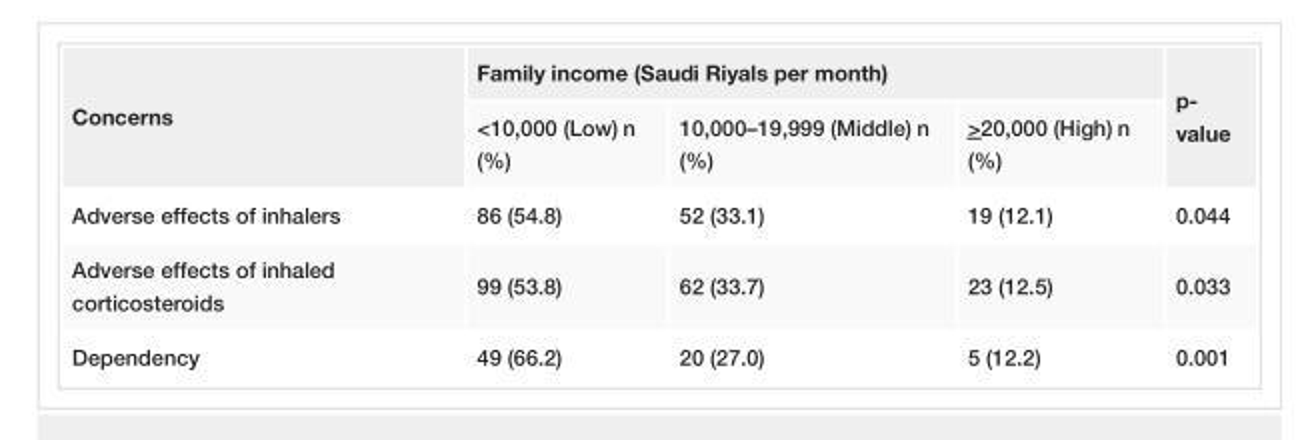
<table><tbody><tr><td rowspan="2">Concerns</td><td colspan="3">Family income (Saudi Riyals per month)</td><td rowspan="2">p- value</td></tr><tr><td>&lt;10,000 (Low) n (%)</td><td>10,000–19,999 (Middle) n (%)</td><td>&gt;20,000 (High) n (%)</td></tr><tr><td>Adverse effects of inhalers</td><td>86 (54.8)</td><td>52 (33.1)</td><td>19 (12.1)</td><td>0.044</td></tr><tr><td>Adverse effects of inhaled corticosteroids</td><td>99 (53.8)</td><td>62 (33.7)</td><td>23 (12.5)</td><td>0.033</td></tr><tr><td>Dependency</td><td>49 (66.2)</td><td>20 (27.0)</td><td>5 (12.2)</td><td>0.001</td></tr></tbody></table>